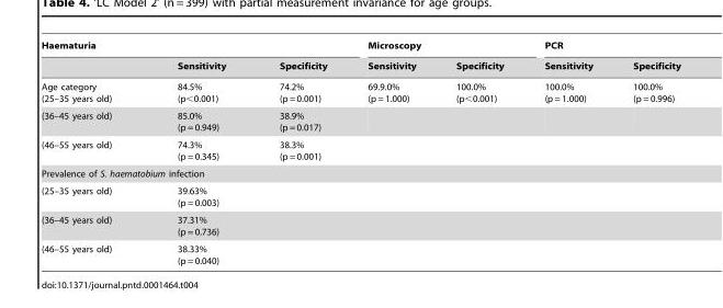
<table><thead><tr><td colspan="3">Haematuria</td><td colspan="2">Microscopy</td><td colspan="2">PCR</td></tr><tr><td></td><td>Sensitivity</td><td>Specificity</td><td>Sensitivity</td><td>Specificity</td><td>Sensitivity</td><td>Specificity</td></tr></thead><tbody><tr><td>Age category (25–35 years old)</td><td>84.5% (p&lt;0.001)</td><td>74.2% (p = 0.001)</td><td>69.9.0% (p = 1.000)</td><td>100.0% (p&lt;0.001)</td><td>100.0% (p = 1.000)</td><td>100.0% (p = 0.996)</td></tr><tr><td>(36–45 years old)</td><td>85.0% (p = 0.949)</td><td>38.9% (p = 0.017)</td><td></td><td></td><td></td><td></td></tr><tr><td>(46–55 years old)</td><td>74.3% (p = 0.345)</td><td>38.3% (p = 0.001)</td><td></td><td></td><td></td><td></td></tr><tr><td colspan="7">Prevalence of S. haematobium infection</td></tr><tr><td>(25–35 years old)</td><td colspan="6">39.63% (p = 0.003)</td></tr><tr><td>(36–45 years old)</td><td colspan="6">37.31% (p = 0.736)</td></tr><tr><td>(46–55 years old)</td><td colspan="6">38.33% (p = 0.040)</td></tr></tbody></table>